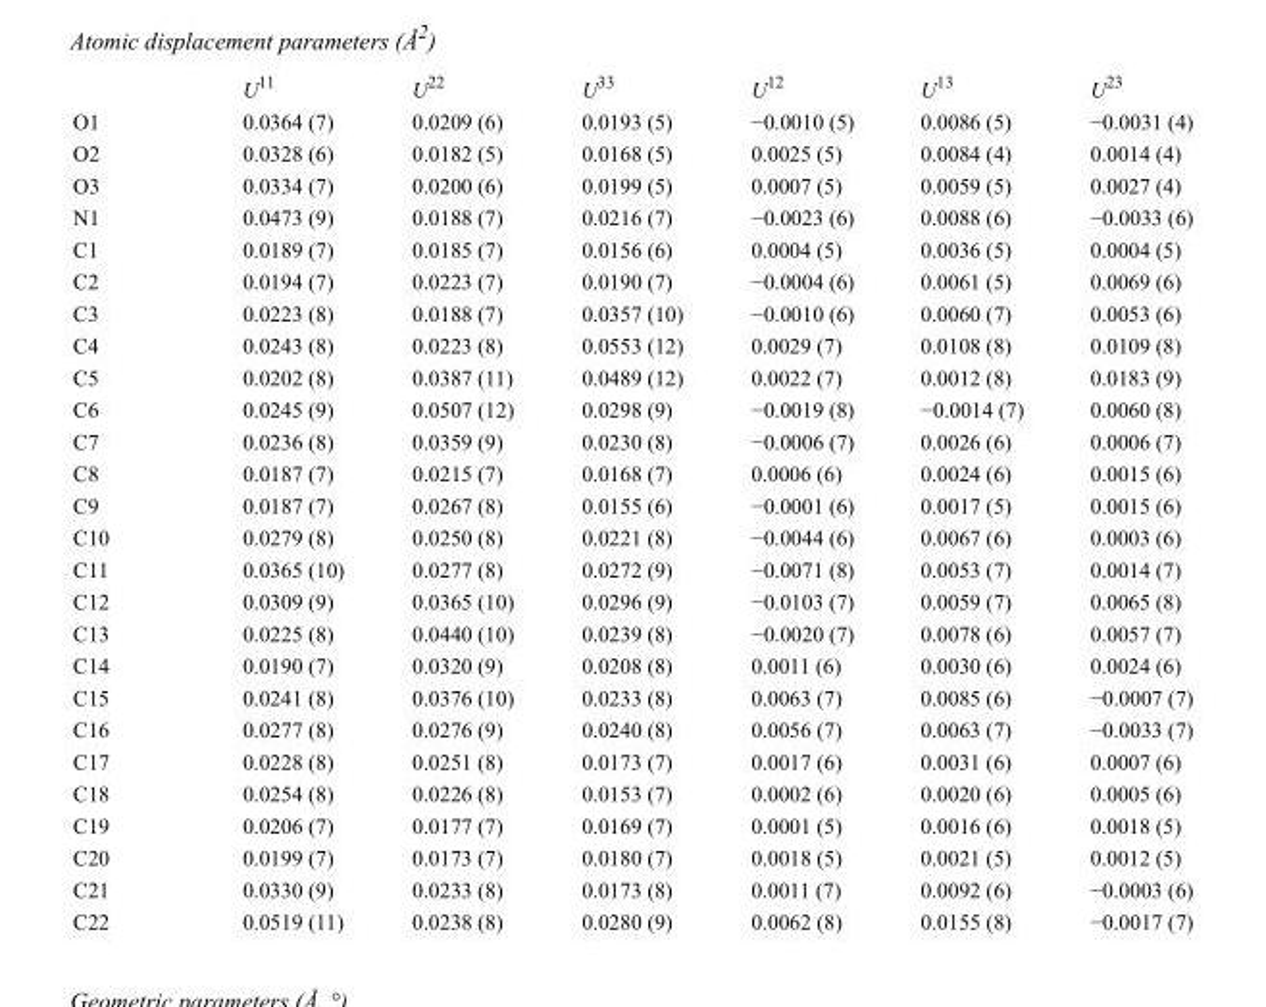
<table><thead><tr><td></td><td>U<sup>11</sup></td><td>U<sup>22</sup></td><td>U<sup>33</sup></td><td>U<sup>12</sup></td><td>U<sup>13</sup></td><td>U<sup>23</sup></td></tr></thead><tbody><tr><td>O1</td><td>0.0364 (7)</td><td>0.0209 (6)</td><td>0.0193 (5)</td><td>−0.0010 (5)</td><td>0.0086 (5)</td><td>−0.0031 (4)</td></tr><tr><td>O2</td><td>0.0328 (6)</td><td>0.0182 (5)</td><td>0.0168 (5)</td><td>0.0025 (5)</td><td>0.0084 (4)</td><td>0.0014 (4)</td></tr><tr><td>O3</td><td>0.0334 (7)</td><td>0.0200 (6)</td><td>0.0199 (5)</td><td>0.0007 (5)</td><td>0.0059 (5)</td><td>0.0027 (4)</td></tr><tr><td>N1</td><td>0.0473 (9)</td><td>0.0188 (7)</td><td>0.0216 (7)</td><td>−0.0023 (6)</td><td>0.0088 (6)</td><td>−0.0033 (6)</td></tr><tr><td>C1</td><td>0.0189 (7)</td><td>0.0185 (7)</td><td>0.0156 (6)</td><td>0.0004 (5)</td><td>0.0036 (5)</td><td>0.0004 (5)</td></tr><tr><td>C2</td><td>0.0194 (7)</td><td>0.0223 (7)</td><td>0.0190 (7)</td><td>−0.0004 (6)</td><td>0.0061 (5)</td><td>0.0069 (6)</td></tr><tr><td>C3</td><td>0.0223 (8)</td><td>0.0188 (7)</td><td>0.0357 (10)</td><td>−0.0010 (6)</td><td>0.0060 (7)</td><td>0.0053 (6)</td></tr><tr><td>C4</td><td>0.0243 (8)</td><td>0.0223 (8)</td><td>0.0553 (12)</td><td>0.0029 (7)</td><td>0.0108 (8)</td><td>0.0109 (8)</td></tr><tr><td>C5</td><td>0.0202 (8)</td><td>0.0387 (11)</td><td>0.0489 (12)</td><td>0.0022 (7)</td><td>0.0012 (8)</td><td>0.0183 (9)</td></tr><tr><td>C6</td><td>0.0245 (9)</td><td>0.0507 (12)</td><td>0.0298 (9)</td><td>−0.0019 (8)</td><td>−0.0014 (7)</td><td>0.0060 (8)</td></tr><tr><td>C7</td><td>0.0236 (8)</td><td>0.0359 (9)</td><td>0.0230 (8)</td><td>−0.0006 (7)</td><td>0.0026 (6)</td><td>0.0006 (7)</td></tr><tr><td>C8</td><td>0.0187 (7)</td><td>0.0215 (7)</td><td>0.0168 (7)</td><td>0.0006 (6)</td><td>0.0024 (6)</td><td>0.0015 (6)</td></tr><tr><td>C9</td><td>0.0187 (7)</td><td>0.0267 (8)</td><td>0.0155 (6)</td><td>−0.0001 (6)</td><td>0.0017 (5)</td><td>0.0015 (6)</td></tr><tr><td>C10</td><td>0.0279 (8)</td><td>0.0250 (8)</td><td>0.0221 (8)</td><td>−0.0044 (6)</td><td>0.0067 (6)</td><td>0.0003 (6)</td></tr><tr><td>C11</td><td>0.0365 (10)</td><td>0.0277 (8)</td><td>0.0272 (9)</td><td>−0.0071 (8)</td><td>0.0053 (7)</td><td>0.0014 (7)</td></tr><tr><td>C12</td><td>0.0309 (9)</td><td>0.0365 (10)</td><td>0.0296 (9)</td><td>−0.0103 (7)</td><td>0.0059 (7)</td><td>0.0065 (8)</td></tr><tr><td>C13</td><td>0.0225 (8)</td><td>0.0440 (10)</td><td>0.0239 (8)</td><td>−0.0020 (7)</td><td>0.0078 (6)</td><td>0.0057 (7)</td></tr><tr><td>C14</td><td>0.0190 (7)</td><td>0.0320 (9)</td><td>0.0208 (8)</td><td>0.0011 (6)</td><td>0.0030 (6)</td><td>0.0024 (6)</td></tr><tr><td>C15</td><td>0.0241 (8)</td><td>0.0376 (10)</td><td>0.0233 (8)</td><td>0.0063 (7)</td><td>0.0085 (6)</td><td>−0.0007 (7)</td></tr><tr><td>C16</td><td>0.0277 (8)</td><td>0.0276 (9)</td><td>0.0240 (8)</td><td>0.0056 (7)</td><td>0.0063 (7)</td><td>−0.0033 (7)</td></tr><tr><td>C17</td><td>0.0228 (8)</td><td>0.0251 (8)</td><td>0.0173 (7)</td><td>0.0017 (6)</td><td>0.0031 (6)</td><td>0.0007 (6)</td></tr><tr><td>C18</td><td>0.0254 (8)</td><td>0.0226 (8)</td><td>0.0153 (7)</td><td>0.0002 (6)</td><td>0.0020 (6)</td><td>0.0005 (6)</td></tr><tr><td>C19</td><td>0.0206 (7)</td><td>0.0177 (7)</td><td>0.0169 (7)</td><td>0.0001 (5)</td><td>0.0016 (6)</td><td>0.0018 (5)</td></tr><tr><td>C20</td><td>0.0199 (7)</td><td>0.0173 (7)</td><td>0.0180 (7)</td><td>0.0018 (5)</td><td>0.0021 (5)</td><td>0.0012 (5)</td></tr><tr><td>C21</td><td>0.0330 (9)</td><td>0.0233 (8)</td><td>0.0173 (8)</td><td>0.0011 (7)</td><td>0.0092 (6)</td><td>−0.0003 (6)</td></tr><tr><td>C22</td><td>0.0519 (11)</td><td>0.0238 (8)</td><td>0.0280 (9)</td><td>0.0062 (8)</td><td>0.0155 (8)</td><td>−0.0017 (7)</td></tr></tbody></table>